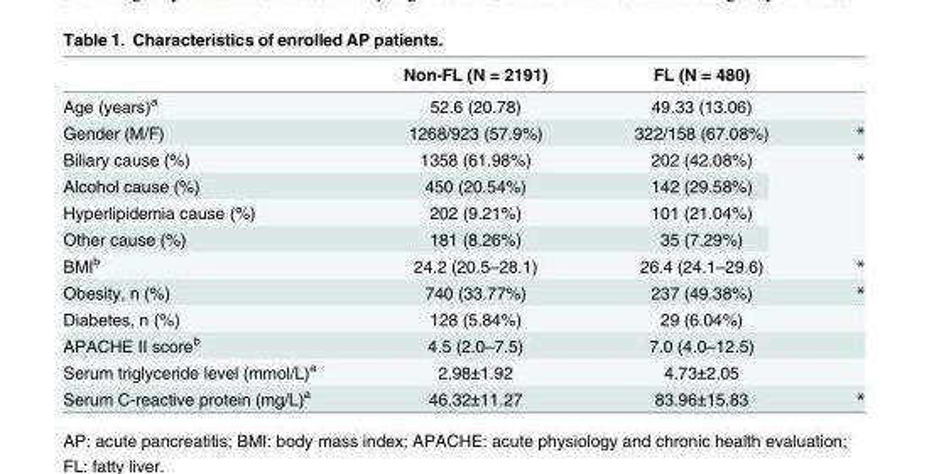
<table><thead><tr><td></td><td>Non-FL (N = 2191)</td><td>FL (N = 480)</td><td></td></tr></thead><tbody><tr><td>Age (years)<sup>a</sup></td><td>52.6 (20.78)</td><td>49.33 (13.06)</td><td></td></tr><tr><td>Gender (M/F)</td><td>1268/923 (57.9%)</td><td>322/158 (67.08%)</td><td>*</td></tr><tr><td>Biliary cause (%)</td><td>1358 (61.98%)</td><td>202 (42.08%)</td><td rowspan="4">*</td></tr><tr><td>Alcohol cause (%)</td><td>450 (20.54%)</td><td>142 (29.58%)</td></tr><tr><td>Hyperlipidemia cause (%)</td><td>202 (9.21%)</td><td>101 (21.04%)</td></tr><tr><td>Other cause (%)</td><td>181 (8.26%)</td><td>35 (7.29%)</td></tr><tr><td>BMI<sup>b</sup></td><td>24.2 (20.5–28.1)</td><td>26.4 (24.1–29.6)</td><td>*</td></tr><tr><td>Obesity, n (%)</td><td>740 (33.77%)</td><td>237 (49.38%)</td><td>*</td></tr><tr><td>Diabetes, n (%)</td><td>128 (5.84%)</td><td>29 (6.04%)</td><td></td></tr><tr><td>APACHE II score<sup>b</sup></td><td>4.5 (2.0–7.5)</td><td>7.0 (4.0–12.5)</td><td></td></tr><tr><td>Serum triglyceride level (mmol/L)<sup>a</sup></td><td>2.98±1.92</td><td>4.73±2.05</td><td></td></tr><tr><td>Serum C-reactive protein (mg/L)<sup>a</sup></td><td>46.32±11.27</td><td>83.96±15.83</td><td>*</td></tr></tbody></table>